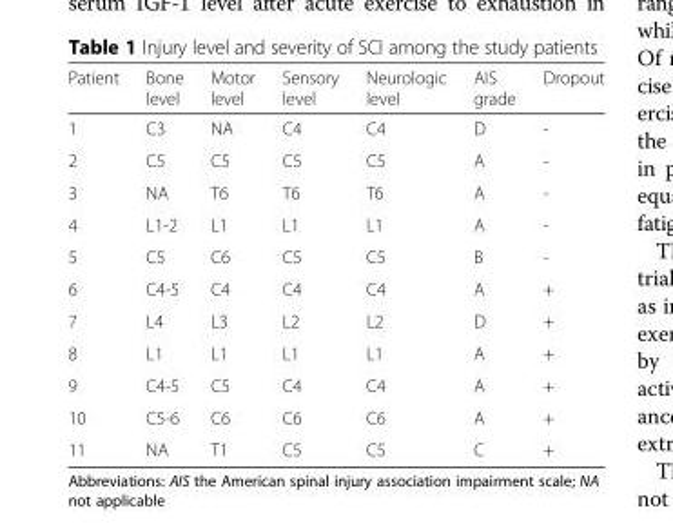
<table><thead><tr><td>Patient</td><td>Bone level</td><td>Motor level</td><td>Sensory level</td><td>Neurologic level</td><td>AIS grade</td><td>Dropout</td></tr></thead><tbody><tr><td>1</td><td>C3</td><td>NA</td><td>C4</td><td>C4</td><td>D</td><td>-</td></tr><tr><td>2</td><td>C5</td><td>C5</td><td>C5</td><td>C5</td><td>A</td><td>-</td></tr><tr><td>3</td><td>NA</td><td>T6</td><td>T6</td><td>T6</td><td>A</td><td>-</td></tr><tr><td>4</td><td>L1-2</td><td>L1</td><td>L1</td><td>L1</td><td>A</td><td>-</td></tr><tr><td>5</td><td>C5</td><td>C6</td><td>C5</td><td>C5</td><td>B</td><td>-</td></tr><tr><td>6</td><td>C4-5</td><td>C4</td><td>C4</td><td>C4</td><td>A</td><td>+</td></tr><tr><td>7</td><td>L4</td><td>L3</td><td>L2</td><td>L2</td><td>D</td><td>+</td></tr><tr><td>8</td><td>L1</td><td>L1</td><td>L1</td><td>L1</td><td>A</td><td>+</td></tr><tr><td>9</td><td>C4-5</td><td>C5</td><td>C4</td><td>C4</td><td>A</td><td>+</td></tr><tr><td>10</td><td>C5-6</td><td>C6</td><td>C6</td><td>C6</td><td>A</td><td>+</td></tr><tr><td>11</td><td>NA</td><td>T1</td><td>C5</td><td>C5</td><td>C</td><td>+</td></tr></tbody></table>